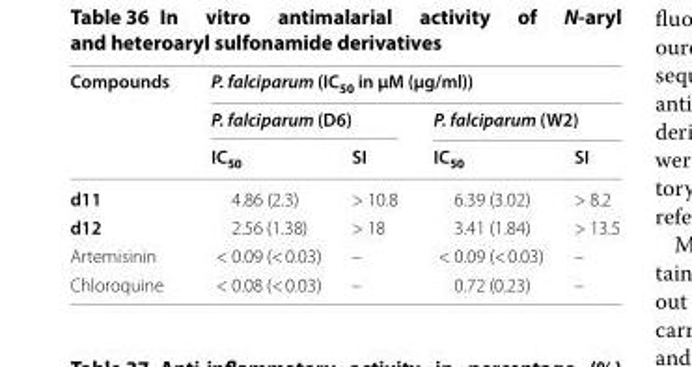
<table><thead><tr><td rowspan="3">Compounds</td><td colspan="4">P. falciparum (IC<sub>50</sub> in µM (µg/ml))</td></tr><tr><td colspan="2">P. falciparum (D6)</td><td colspan="2">P. falciparum (W2)</td></tr><tr><td>IC<sub>50</sub></td><td>SI</td><td>IC<sub>50</sub></td><td>SI</td></tr></thead><tbody><tr><td>d11</td><td>4.86 (2.3)</td><td>&gt; 10.8</td><td>6.39 (3.02)</td><td>&gt; 8.2</td></tr><tr><td>d12</td><td>2.56 (1.38)</td><td>&gt; 18</td><td>3.41 (1.84)</td><td>&gt; 13.5</td></tr><tr><td>Artemisinin</td><td>&lt; 0.09 (&lt; 0.03)</td><td>–</td><td>&lt; 0.09 (&lt; 0.03)</td><td>–</td></tr><tr><td>Chloroquine</td><td>&lt; 0.08 (&lt; 0.03)</td><td>–</td><td>0.72 (0.23)</td><td>–</td></tr></tbody></table>